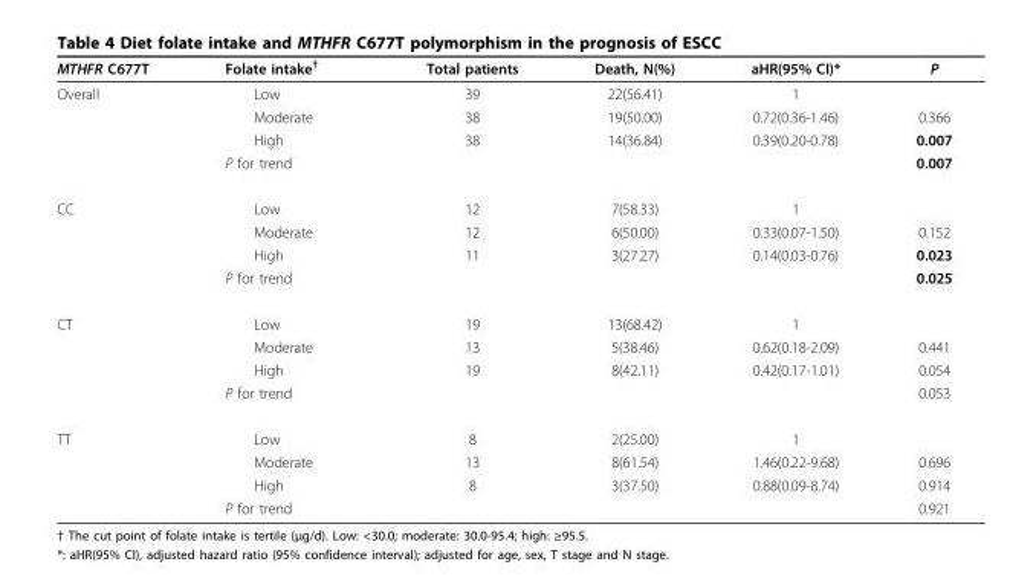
<table><thead><tr><td>MTHFR C677T</td><td>Folate intake<sup>†</sup></td><td>Total patients</td><td>Death, N(%)</td><td>aHR(95% CI)*</td><td>P</td></tr></thead><tbody><tr><td rowspan="4">Overall</td><td>Low</td><td>39</td><td>22(56.41)</td><td>1</td><td></td></tr><tr><td>Moderate</td><td>38</td><td>19(50.00)</td><td>0.72(0.36-1.46)</td><td>0.366</td></tr><tr><td>High</td><td>38</td><td>14(36.84)</td><td>0.39(0.20-0.78)</td><td>0.007</td></tr><tr><td>P for trend</td><td></td><td></td><td></td><td>0.007</td></tr><tr><td rowspan="4">CC</td><td>Low</td><td>12</td><td>7(58.33)</td><td>1</td><td></td></tr><tr><td>Moderate</td><td>12</td><td>6(50.00)</td><td>0.33(0.07-1.50)</td><td>0.152</td></tr><tr><td>High</td><td>11</td><td>3(27.27)</td><td>0.14(0.03-0.76)</td><td>0.023</td></tr><tr><td>P for trend</td><td></td><td></td><td></td><td>0.025</td></tr><tr><td rowspan="4">CT</td><td>Low</td><td>19</td><td>13(68.42)</td><td>1</td><td></td></tr><tr><td>Moderate</td><td>13</td><td>5(38.46)</td><td>0.62(0.18-2.09)</td><td>0.441</td></tr><tr><td>High</td><td>19</td><td>8(42.11)</td><td>0.42(0.17-1.01)</td><td>0.054</td></tr><tr><td>P for trend</td><td></td><td></td><td></td><td>0.053</td></tr><tr><td rowspan="4">TT</td><td>Low</td><td>8</td><td>2(25.00)</td><td>1</td><td></td></tr><tr><td>Moderate</td><td>13</td><td>8(61.54)</td><td>1.46(0.22-9.68)</td><td>0.696</td></tr><tr><td>High</td><td>8</td><td>3(37.50)</td><td>0.88(0.09-8.74)</td><td>0.914</td></tr><tr><td>P for trend</td><td></td><td></td><td></td><td>0.921</td></tr></tbody></table>